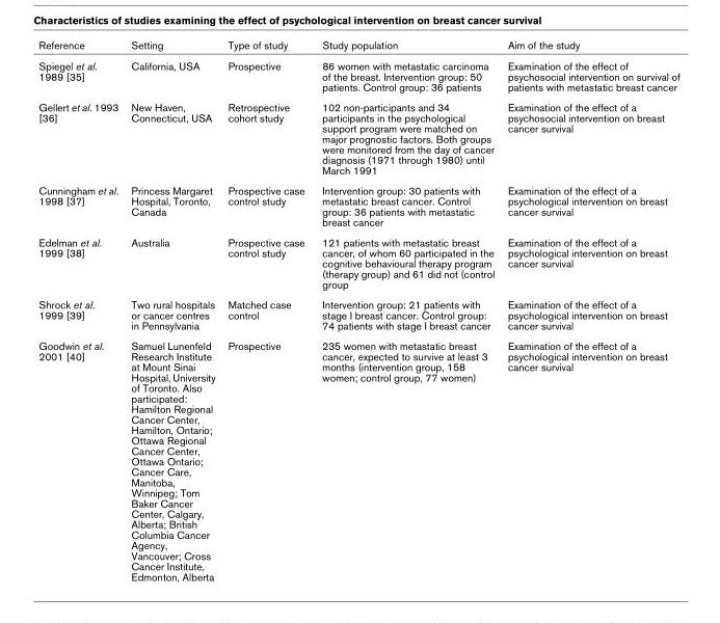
<table><thead><tr><td>Reference</td><td>Setting</td><td>Type of study</td><td>Study population</td><td>Aim of the study</td></tr></thead><tbody><tr><td>Spiegel et al. 1989 [35]</td><td>California, USA</td><td>Prospective</td><td>86 women with metastatic carcinoma of the breast. Intervention group: 50 patients. Control group: 36 patients</td><td>Examination of the effect of psychosocial intervention on survival of patients with metastatic breast cancer</td></tr><tr><td>Gellert et al. 1993 [36]</td><td>New Haven, Connecticut, USA</td><td>Retrospective cohort study</td><td>102 non-participants and 34 participants in the psychological support program were matched on major prognostic factors. Both groups were monitored from the day of cancer diagnosis (1971 through 1980) until March 1991</td><td>Examination of the effect of a psychosocial intervention on breast cancer survival</td></tr><tr><td>Cunningham et al. 1998 [37]</td><td>Princess Margaret Hospital, Toronto, Canada</td><td>Prospective case control study</td><td>Intervention group: 30 patients with metastatic breast cancer. Control group: 36 patients with metastatic breast cancer</td><td>Examination of the effect of a psychological intervention on breast cancer survival</td></tr><tr><td>Edelman et al. 1999 [38]</td><td>Australia</td><td>Prospective case control study</td><td>121 patients with metastatic breast cancer, of whom 60 participated in the cognitive behavioural therapy program (therapy group) and 61 did not (control group</td><td>Examination of the effect of a psychological intervention on breast cancer survival</td></tr><tr><td>Shrock et al. 1999 [39]</td><td>Two rural hospitals or cancer centres in Pennsylvania</td><td>Matched case control</td><td>Intervention group: 21 patients with stage I breast cancer. Control group: 74 patients with stage I breast cancer</td><td>Examination of the effect of a psychological intervention on breast cancer survival</td></tr><tr><td>Goodwin et al. 2001 [40]</td><td>Samuel Lunenfeld Research Institute at Mount Sinai Hospital, University of Toronto. Also participated: Hamilton Regional Cancer Center, Hamilton, Ontario; Ottawa Regional Cancer Center, Ottawa Ontario; Cancer Care, Manitoba, Winnipeg; Tom Baker Cancer Center, Calgary, Alberta; British Columbia Cancer Agency, Vancouver; Cross Cancer Institute, Edmonton, Alberta</td><td>Prospective</td><td>235 women with metastatic breast cancer, expected to survive at least 3 months (intervention group, 158 women; control group, 77 women)</td><td>Examination of the effect of a psychological intervention on breast cancer survival</td></tr></tbody></table>